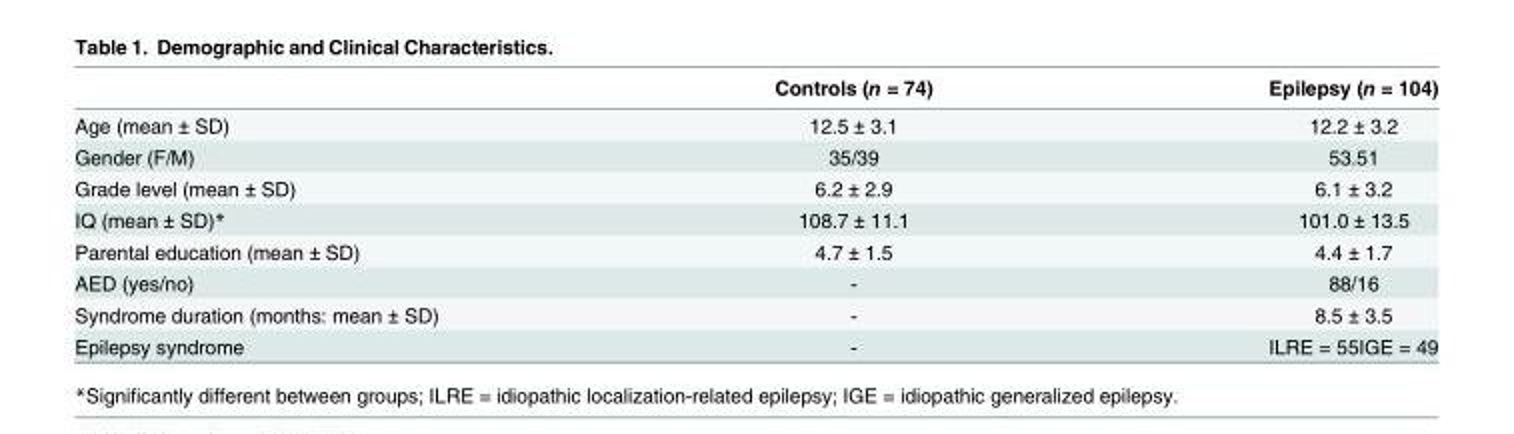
<table><thead><tr><td></td><td>Controls (n = 74)</td><td>Epilepsy (n = 104)</td></tr></thead><tbody><tr><td>Age (mean ± SD)</td><td>12.5 ± 3.1</td><td>12.2 ± 3.2</td></tr><tr><td>Gender (F/M)</td><td>35/39</td><td>53.51</td></tr><tr><td>Grade level (mean ± SD)</td><td>6.2 ± 2.9</td><td>6.1 ± 3.2</td></tr><tr><td>IQ (mean ± SD)*</td><td>108.7 ± 11.1</td><td>101.0 ± 13.5</td></tr><tr><td>Parental education (mean ± SD)</td><td>4.7 ± 1.5</td><td>4.4 ± 1.7</td></tr><tr><td>AED (yes/no)</td><td>-</td><td>88/16</td></tr><tr><td>Syndrome duration (months: mean ± SD)</td><td>-</td><td>8.5 ± 3.5</td></tr><tr><td>Epilepsy syndrome</td><td>-</td><td>ILRE = 55IGE = 49</td></tr></tbody></table>